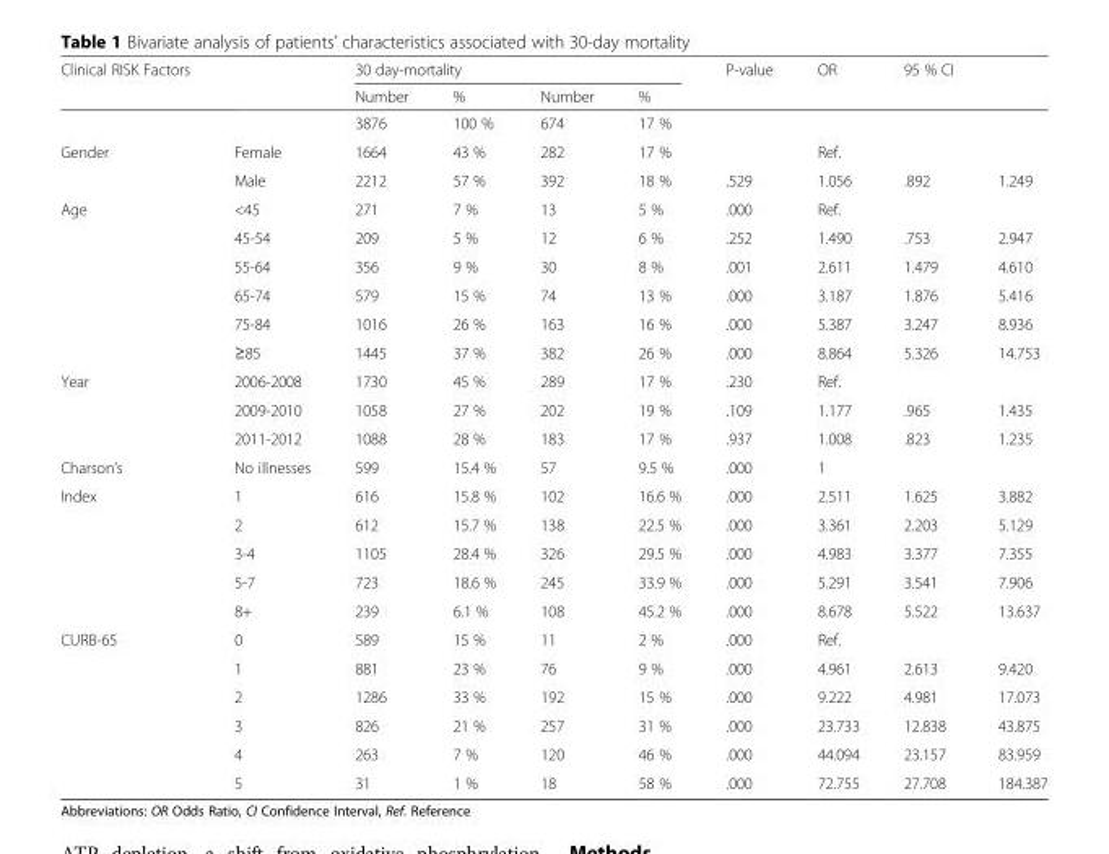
<table><thead><tr><td rowspan="2">Clinical RISK Factors</td><td rowspan="2"></td><td colspan="4">30 day-mortality</td><td rowspan="2">P-value</td><td rowspan="2">OR</td><td rowspan="2">95 % CI</td><td rowspan="2"></td></tr><tr><td>Number</td><td>%</td><td>Number</td><td>%</td></tr></thead><tbody><tr><td></td><td></td><td>3876</td><td>100 %</td><td>674</td><td>17 %</td><td></td><td></td><td></td><td></td></tr><tr><td rowspan="2">Gender</td><td>Female</td><td>1664</td><td>43 %</td><td>282</td><td>17 %</td><td></td><td>Ref.</td><td></td><td></td></tr><tr><td>Male</td><td>2212</td><td>57 %</td><td>392</td><td>18 %</td><td>.529</td><td>1.056</td><td>.892</td><td>1.249</td></tr><tr><td rowspan="6">Age</td><td>&lt;45</td><td>271</td><td>7 %</td><td>13</td><td>5 %</td><td>.000</td><td>Ref.</td><td></td><td></td></tr><tr><td>45-54</td><td>209</td><td>5 %</td><td>12</td><td>6 %</td><td>.252</td><td>1.490</td><td>.753</td><td>2.947</td></tr><tr><td>55-64</td><td>356</td><td>9 %</td><td>30</td><td>8 %</td><td>.001</td><td>2.611</td><td>1.479</td><td>4.610</td></tr><tr><td>65-74</td><td>579</td><td>15 %</td><td>74</td><td>13 %</td><td>.000</td><td>3.187</td><td>1.876</td><td>5.416</td></tr><tr><td>75-84</td><td>1016</td><td>26 %</td><td>163</td><td>16 %</td><td>.000</td><td>5.387</td><td>3.247</td><td>8.936</td></tr><tr><td>≥85</td><td>1445</td><td>37 %</td><td>382</td><td>26 %</td><td>.000</td><td>8.864</td><td>5.326</td><td>14.753</td></tr><tr><td rowspan="3">Year</td><td>2006-2008</td><td>1730</td><td>45 %</td><td>289</td><td>17 %</td><td>.230</td><td>Ref.</td><td></td><td></td></tr><tr><td>2009-2010</td><td>1058</td><td>27 %</td><td>202</td><td>19 %</td><td>.109</td><td>1.177</td><td>.965</td><td>1.435</td></tr><tr><td>2011-2012</td><td>1088</td><td>28 %</td><td>183</td><td>17 %</td><td>.937</td><td>1.008</td><td>.823</td><td>1.235</td></tr><tr><td>Charson’s</td><td>No illnesses</td><td>599</td><td>15.4 %</td><td>57</td><td>9.5 %</td><td>.000</td><td>1</td><td></td><td></td></tr><tr><td rowspan="5">Index</td><td>1</td><td>616</td><td>15.8 %</td><td>102</td><td>16.6 %</td><td>.000</td><td>2.511</td><td>1.625</td><td>3.882</td></tr><tr><td>2</td><td>612</td><td>15.7 %</td><td>138</td><td>22.5 %</td><td>.000</td><td>3.361</td><td>2.203</td><td>5.129</td></tr><tr><td>3-4</td><td>1105</td><td>28.4 %</td><td>326</td><td>29.5 %</td><td>.000</td><td>4.983</td><td>3.377</td><td>7.355</td></tr><tr><td>5-7</td><td>723</td><td>18.6 %</td><td>245</td><td>33.9 %</td><td>.000</td><td>5.291</td><td>3.541</td><td>7.906</td></tr><tr><td>8+</td><td>239</td><td>6.1 %</td><td>108</td><td>45.2 %</td><td>.000</td><td>8.678</td><td>5.522</td><td>13.637</td></tr><tr><td rowspan="6">CURB-65</td><td>0</td><td>589</td><td>15 %</td><td>11</td><td>2 %</td><td>.000</td><td>Ref.</td><td></td><td></td></tr><tr><td>1</td><td>881</td><td>23 %</td><td>76</td><td>9 %</td><td>.000</td><td>4.961</td><td>2.613</td><td>9.420</td></tr><tr><td>2</td><td>1286</td><td>33 %</td><td>192</td><td>15 %</td><td>.000</td><td>9.222</td><td>4.981</td><td>17.073</td></tr><tr><td>3</td><td>826</td><td>21 %</td><td>257</td><td>31 %</td><td>.000</td><td>23.733</td><td>12.838</td><td>43.875</td></tr><tr><td>4</td><td>263</td><td>7 %</td><td>120</td><td>46 %</td><td>.000</td><td>44.094</td><td>23.157</td><td>83.959</td></tr><tr><td>5</td><td>31</td><td>1 %</td><td>18</td><td>58 %</td><td>.000</td><td>72.755</td><td>27.708</td><td>184.387</td></tr></tbody></table>